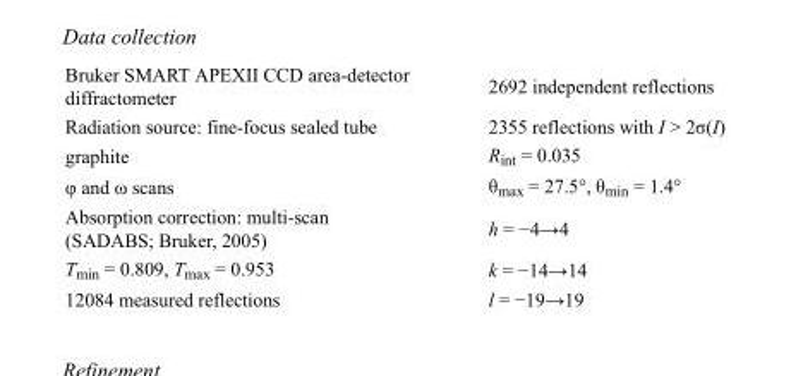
<table><tbody><tr><td>Bruker SMART APEXII CCD area-detector diffractometer</td><td>2692 independent reflections</td></tr><tr><td>Radiation source: fine-focus sealed tube</td><td>2355 reflections with I &gt; 2σ(I)</td></tr><tr><td>graphite</td><td>R<sub>int</sub> = 0.035</td></tr><tr><td>φ and ω scans</td><td>θ<sub>max</sub> = 27.5°, θ<sub>min</sub> = 1.4°</td></tr><tr><td>Absorption correction: multi-scan (SADABS; Bruker, 2005)</td><td>h = −4→4</td></tr><tr><td>T<sub>min</sub> = 0.809, T<sub>max</sub> = 0.953</td><td>k = −14→14</td></tr><tr><td>12084 measured reflections</td><td>l = −19→19</td></tr></tbody></table>